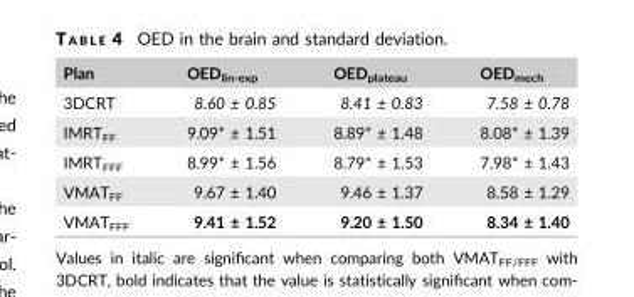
<table><thead><tr><td>Plan</td><td>OED<sub>lin-exp</sub></td><td>OED<sub>plateau</sub></td><td>OED<sub>mech</sub></td></tr></thead><tbody><tr><td>3DCRT</td><td>8.60 ± 0.85</td><td>8.41 ± 0.83</td><td>7.58 ± 0.78</td></tr><tr><td>IMRT<sub>FF</sub></td><td>9.09* ± 1.51</td><td>8.89* ± 1.48</td><td>8.08* ± 1.39</td></tr><tr><td>IMRT<sub>FFF</sub></td><td>8.99* ± 1.56</td><td>8.79* ± 1.53</td><td>7.98* ± 1.43</td></tr><tr><td>VMAT<sub>FF</sub></td><td>9.67 ± 1.40</td><td>9.46 ± 1.37</td><td>8.58 ± 1.29</td></tr><tr><td>VMAT<sub>FFF</sub></td><td>9.41 ± 1.52</td><td>9.20 ± 1.50</td><td>8.34 ± 1.40</td></tr></tbody></table>